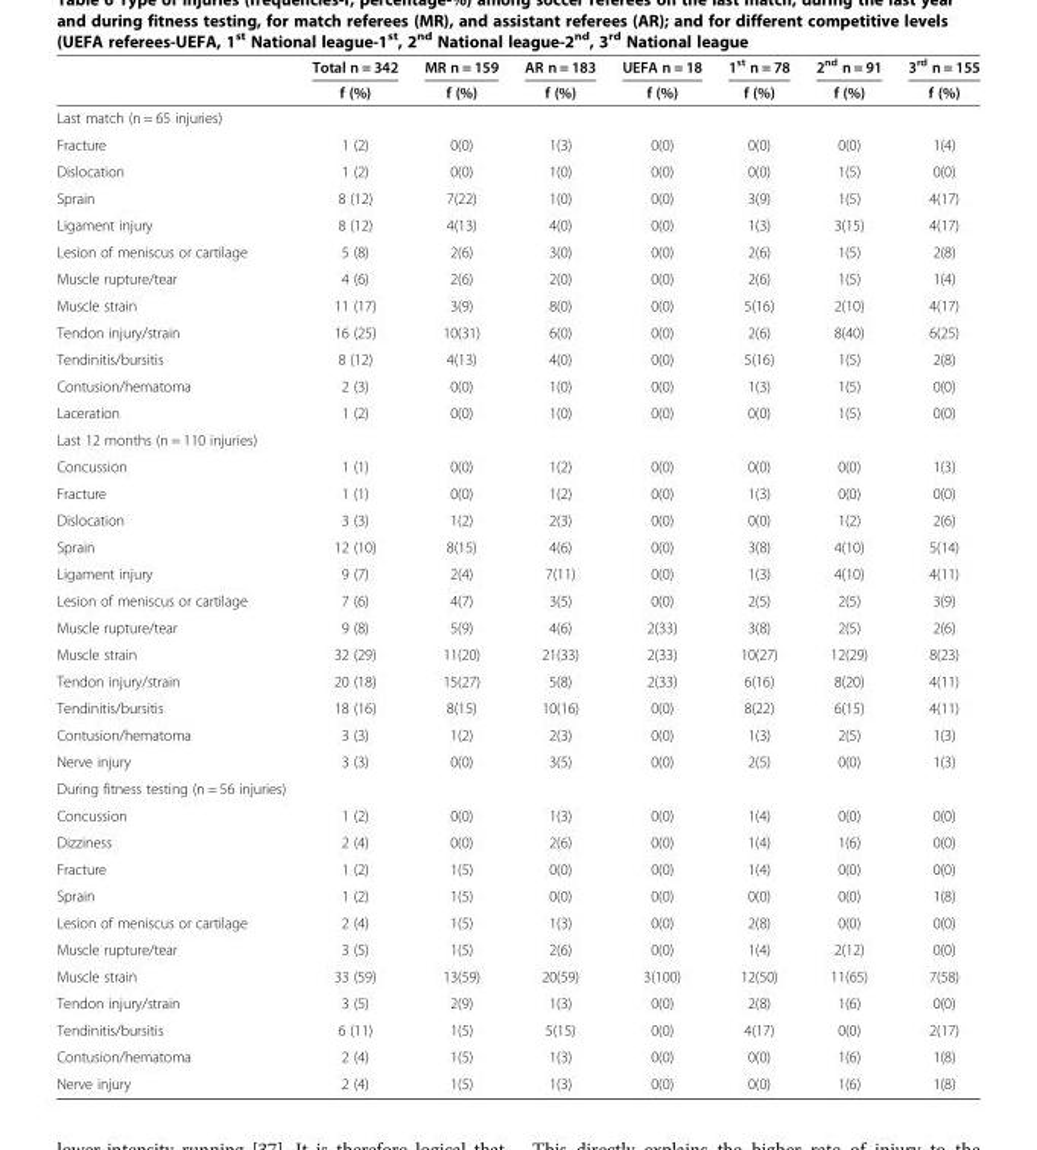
<table><thead><tr><td rowspan="2"></td><td rowspan="2">Total n = 342 f (%)</td><td rowspan="2">MR n = 159 f (%)</td><td rowspan="2">AR n = 183 f (%)</td><td rowspan="2">UEFA n = 18 f (%)</td><td rowspan="2">1<sup>st</sup> n = 78 f (%)</td><td rowspan="2">2<sup>nd</sup> n = 91 f (%)</td><td rowspan="2">3<sup>rd</sup> n = 155 f (%)</td></tr><tr></tr></thead><tbody><tr><td colspan="8">Last match (n = 65 injuries)</td></tr><tr><td>Fracture</td><td>1 (2)</td><td>0(0)</td><td>1(3)</td><td>0(0)</td><td>0(0)</td><td>0(0)</td><td>1(4)</td></tr><tr><td>Dislocation</td><td>1 (2)</td><td>0(0)</td><td>1(0)</td><td>0(0)</td><td>0(0)</td><td>1(5)</td><td>0(0)</td></tr><tr><td>Sprain</td><td>8 (12)</td><td>7(22)</td><td>1(0)</td><td>0(0)</td><td>3(9)</td><td>1(5)</td><td>4(17)</td></tr><tr><td>Ligament injury</td><td>8 (12)</td><td>4(13)</td><td>4(0)</td><td>0(0)</td><td>1(3)</td><td>3(15)</td><td>4(17)</td></tr><tr><td>Lesion of meniscus or cartilage</td><td>5 (8)</td><td>2(6)</td><td>3(0)</td><td>0(0)</td><td>2(6)</td><td>1(5)</td><td>2(8)</td></tr><tr><td>Muscle rupture/tear</td><td>4 (6)</td><td>2(6)</td><td>2(0)</td><td>0(0)</td><td>2(6)</td><td>1(5)</td><td>1(4)</td></tr><tr><td>Muscle strain</td><td>11 (17)</td><td>3(9)</td><td>8(0)</td><td>0(0)</td><td>5(16)</td><td>2(10)</td><td>4(17)</td></tr><tr><td>Tendon injury/strain</td><td>16 (25)</td><td>10(31)</td><td>6(0)</td><td>0(0)</td><td>2(6)</td><td>8(40)</td><td>6(25)</td></tr><tr><td>Tendinitis/bursitis</td><td>8 (12)</td><td>4(13)</td><td>4(0)</td><td>0(0)</td><td>5(16)</td><td>1(5)</td><td>2(8)</td></tr><tr><td>Contusion/hematoma</td><td>2 (3)</td><td>0(0)</td><td>1(0)</td><td>0(0)</td><td>1(3)</td><td>1(5)</td><td>0(0)</td></tr><tr><td>Laceration</td><td>1 (2)</td><td>0(0)</td><td>1(0)</td><td>0(0)</td><td>0(0)</td><td>1(5)</td><td>0(0)</td></tr><tr><td colspan="8">Last 12 months (n = 110 injuries)</td></tr><tr><td>Concussion</td><td>1 (1)</td><td>0(0)</td><td>1(2)</td><td>0(0)</td><td>0(0)</td><td>0(0)</td><td>1(3)</td></tr><tr><td>Fracture</td><td>1 (1)</td><td>0(0)</td><td>1(2)</td><td>0(0)</td><td>1(3)</td><td>0(0)</td><td>0(0)</td></tr><tr><td>Dislocation</td><td>3 (3)</td><td>1(2)</td><td>2(3)</td><td>0(0)</td><td>0(0)</td><td>1(2)</td><td>2(6)</td></tr><tr><td>Sprain</td><td>12 (10)</td><td>8(15)</td><td>4(6)</td><td>0(0)</td><td>3(8)</td><td>4(10)</td><td>5(14)</td></tr><tr><td>Ligament injury</td><td>9 (7)</td><td>2(4)</td><td>7(11)</td><td>0(0)</td><td>1(3)</td><td>4(10)</td><td>4(11)</td></tr><tr><td>Lesion of meniscus or cartilage</td><td>7 (6)</td><td>4(7)</td><td>3(5)</td><td>0(0)</td><td>2(5)</td><td>2(5)</td><td>3(9)</td></tr><tr><td>Muscle rupture/tear</td><td>9 (8)</td><td>5(9)</td><td>4(6)</td><td>2(33)</td><td>3(8)</td><td>2(5)</td><td>2(6)</td></tr><tr><td>Muscle strain</td><td>32 (29)</td><td>11(20)</td><td>21(33)</td><td>2(33)</td><td>10(27)</td><td>12(29)</td><td>8(23)</td></tr><tr><td>Tendon injury/strain</td><td>20 (18)</td><td>15(27)</td><td>5(8)</td><td>2(33)</td><td>6(16)</td><td>8(20)</td><td>4(11)</td></tr><tr><td>Tendinitis/bursitis</td><td>18 (16)</td><td>8(15)</td><td>10(16)</td><td>0(0)</td><td>8(22)</td><td>6(15)</td><td>4(11)</td></tr><tr><td>Contusion/hematoma</td><td>3 (3)</td><td>1(2)</td><td>2(3)</td><td>0(0)</td><td>1(3)</td><td>2(5)</td><td>1(3)</td></tr><tr><td>Nerve injury</td><td>3 (3)</td><td>0(0)</td><td>3(5)</td><td>0(0)</td><td>2(5)</td><td>0(0)</td><td>1(3)</td></tr><tr><td colspan="8">During fitness testing (n = 56 injuries)</td></tr><tr><td>Concussion</td><td>1 (2)</td><td>0(0)</td><td>1(3)</td><td>0(0)</td><td>1(4)</td><td>0(0)</td><td>0(0)</td></tr><tr><td>Dizziness</td><td>2 (4)</td><td>0(0)</td><td>2(6)</td><td>0(0)</td><td>1(4)</td><td>1(6)</td><td>0(0)</td></tr><tr><td>Fracture</td><td>1 (2)</td><td>1(5)</td><td>0(0)</td><td>0(0)</td><td>1(4)</td><td>0(0)</td><td>0(0)</td></tr><tr><td>Sprain</td><td>1 (2)</td><td>1(5)</td><td>0(0)</td><td>0(0)</td><td>0(0)</td><td>0(0)</td><td>1(8)</td></tr><tr><td>Lesion of meniscus or cartilage</td><td>2 (4)</td><td>1(5)</td><td>1(3)</td><td>0(0)</td><td>2(8)</td><td>0(0)</td><td>0(0)</td></tr><tr><td>Muscle rupture/tear</td><td>3 (5)</td><td>1(5)</td><td>2(6)</td><td>0(0)</td><td>1(4)</td><td>2(12)</td><td>0(0)</td></tr><tr><td>Muscle strain</td><td>33 (59)</td><td>13(59)</td><td>20(59)</td><td>3(100)</td><td>12(50)</td><td>11(65)</td><td>7(58)</td></tr><tr><td>Tendon injury/strain</td><td>3 (5)</td><td>2(9)</td><td>1(3)</td><td>0(0)</td><td>2(8)</td><td>1(6)</td><td>0(0)</td></tr><tr><td>Tendinitis/bursitis</td><td>6 (11)</td><td>1(5)</td><td>5(15)</td><td>0(0)</td><td>4(17)</td><td>0(0)</td><td>2(17)</td></tr><tr><td>Contusion/hematoma</td><td>2 (4)</td><td>1(5)</td><td>1(3)</td><td>0(0)</td><td>0(0)</td><td>1(6)</td><td>1(8)</td></tr><tr><td>Nerve injury</td><td>2 (4)</td><td>1(5)</td><td>1(3)</td><td>0(0)</td><td>0(0)</td><td>1(6)</td><td>1(8)</td></tr></tbody></table>